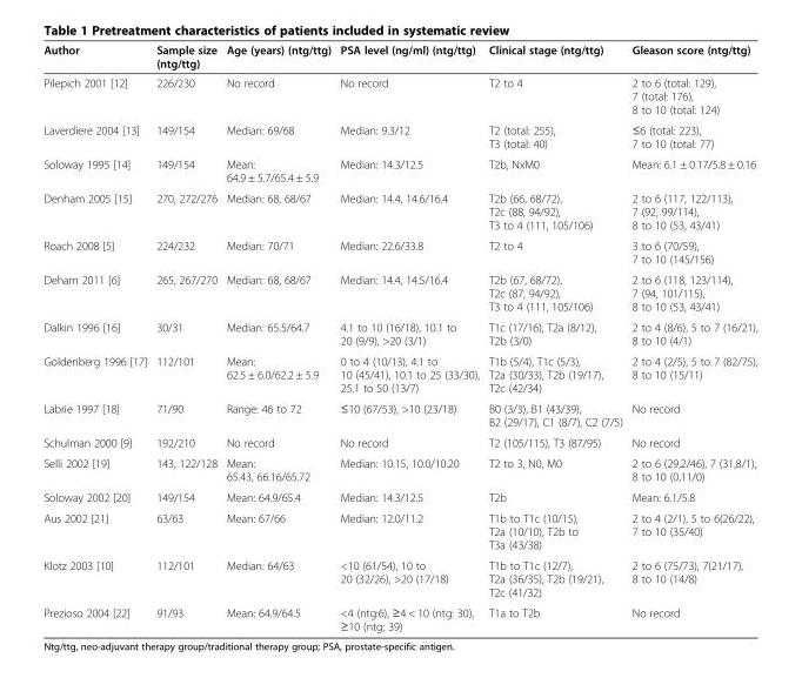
<table><thead><tr><td>Author</td><td>Sample size (ntg/ttg)</td><td>Age (years) (ntg/ttg)</td><td>PSA level (ng/ml) (ntg/ttg)</td><td>Clinical stage (ntg/ttg)</td><td>Gleason score (ntg/ttg)</td></tr></thead><tbody><tr><td>Pilepich 2001 [12]</td><td>226/230</td><td>No record</td><td>No record</td><td>T2 to 4</td><td>2 to 6 (total: 129), 7 (total: 176), 8 to 10 (total: 124)</td></tr><tr><td>Laverdiere 2004 [13]</td><td>149/154</td><td>Median: 69/68</td><td>Median: 9.3/12</td><td>T2 (total: 255), T3 (total: 40)</td><td>≤6 (total: 223), 7 to 10 (total: 77)</td></tr><tr><td>Soloway 1995 [14]</td><td>149/154</td><td>Mean: 64.9 ± 5.7/65.4 ± 5.9</td><td>Median: 14.3/12.5</td><td>T2b, NxM0</td><td>Mean: 6.1 ± 0.17/5.8 ± 0.16</td></tr><tr><td>Denham 2005 [15]</td><td>270, 272/276</td><td>Median: 68, 68/67</td><td>Median: 14.4, 14.6/16.4</td><td>T2b (66, 68/72), T2c (88, 94/92), T3 to 4 (111, 105/106)</td><td>2 to 6 (117, 122/113), 7 (92, 99/114), 8 to 10 (53, 43/41)</td></tr><tr><td>Roach 2008 [5]</td><td>224/232</td><td>Median: 70/71</td><td>Median: 22.6/33.8</td><td>T2 to 4</td><td>3 to 6 (70/59), 7 to 10 (145/156)</td></tr><tr><td>Deham 2011 [6]</td><td>265, 267/270</td><td>Median: 68, 68/67</td><td>Median: 14.4, 14.5/16.4</td><td>T2b (67, 68/72), T2c (87, 94/92), T3 to 4 (111, 105/106)</td><td>2 to 6 (118, 123/114), 7 (94, 101/115), 8 to 10 (53, 43/41)</td></tr><tr><td>Dalkin 1996 [16]</td><td>30/31</td><td>Median: 65.5/64.7</td><td>4.1 to 10 (16/18), 10.1 to 20 (9/9), &gt;20 (3/1)</td><td>T1c (17/16), T2a (8/12), T2b (3/0)</td><td>2 to 4 (8/6), 5 to 7 (16/21), 8 to 10 (4/1)</td></tr><tr><td>Goldenberg 1996 [17]</td><td>112/101</td><td>Mean: 62.5 ± 6.0/62.2 ± 5.9</td><td>0 to 4 (10/13), 4.1 to 10 (45/41), 10.1 to 25 (33/30), 25.1 to 50 (13/7)</td><td>T1b (5/4), T1c (5/3), T2a (30/33), T2b (19/17), T2c (42/34)</td><td>2 to 4 (2/5), 5 to 7 (82/75), 8 to 10 (15/11)</td></tr><tr><td>Labrie 1997 [18]</td><td>71/90</td><td>Range: 46 to 72</td><td>≤10 (67/53), &gt;10 (23/18)</td><td>B0 (3/3), B1 (43/39), B2 (29/17), C1 (8/7), C2 (7/5)</td><td>No record</td></tr><tr><td>Schulman 2000 [9]</td><td>192/210</td><td>No record</td><td>No record</td><td>T2 (105/115), T3 (87/95)</td><td>No record</td></tr><tr><td>Selli 2002 [19]</td><td>143, 122/128</td><td>Mean: 65.43, 66.16/65.72</td><td>Median: 10.15, 10.0/10.20</td><td>T2 to 3, N0, M0</td><td>2 to 6 (29,2/46), 7 (31,8/1), 8 to 10 (0,11/0)</td></tr><tr><td>Soloway 2002 [20]</td><td>149/154</td><td>Mean: 64.9/65.4</td><td>Median: 14.3/12.5</td><td>T2b</td><td>Mean: 6.1/5.8</td></tr><tr><td>Aus 2002 [21]</td><td>63/63</td><td>Mean: 67/66</td><td>Median: 12.0/11.2</td><td>T1b to T1c (10/15), T2a (10/10), T2b to T3a (43/38)</td><td>2 to 4 (2/1), 5 to 6(26/22), 7 to 10 (35/40)</td></tr><tr><td>Klotz 2003 [10]</td><td>112/101</td><td>Median: 64/63</td><td>&lt;10 (61/54), 10 to 20 (32/26), &gt;20 (17/18)</td><td>T1b to T1c (12/7), T2a (36/35), T2b (19/21), T2c (41/32)</td><td>2 to 6 (75/73), 7(21/17), 8 to 10 (14/8)</td></tr><tr><td>Prezioso 2004 [22]</td><td>91/93</td><td>Mean: 64.9/64.5</td><td>&lt;4 (ntg:6), ≥4 &lt; 10 (ntg: 30), ≥10 (ntg: 39)</td><td>T1a to T2b</td><td>No record</td></tr></tbody></table>